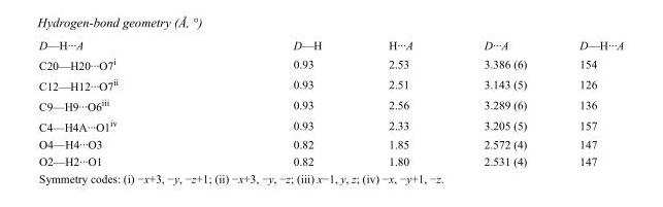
<table><tbody><tr><td>D—H···A</td><td>D—H</td><td>H···A</td><td>D···A</td><td>D—H···A</td></tr><tr><td>C20—H20···O7<sup>i</sup></td><td>0.93</td><td>2.53</td><td>3.386 (6)</td><td>154</td></tr><tr><td>C12—H12···O7<sup>ii</sup></td><td>0.93</td><td>2.51</td><td>3.143 (5)</td><td>126</td></tr><tr><td>C9—H9···O6<sup>iii</sup></td><td>0.93</td><td>2.56</td><td>3.289 (6)</td><td>136</td></tr><tr><td>C4—H4A···O1<sup>iv</sup></td><td>0.93</td><td>2.33</td><td>3.205 (5)</td><td>157</td></tr><tr><td>O4—H4···O3</td><td>0.82</td><td>1.85</td><td>2.572 (4)</td><td>147</td></tr><tr><td>O2—H2···O1</td><td>0.82</td><td>1.80</td><td>2.531 (4)</td><td>147</td></tr></tbody></table>